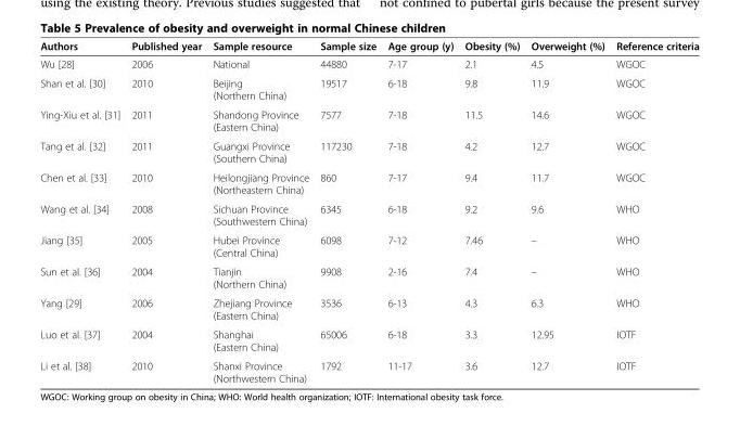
<table><thead><tr><td>Authors</td><td>Published year</td><td>Sample resource</td><td>Sample size</td><td>Age group (y)</td><td>Obesity (%)</td><td>Overweight (%)</td><td>Reference criteria</td></tr></thead><tbody><tr><td>Wu [28]</td><td>2006</td><td>National</td><td>44880</td><td>7-17</td><td>2.1</td><td>4.5</td><td>WGOC</td></tr><tr><td>Shan et al. [30]</td><td>2010</td><td>Beijing (Northern China)</td><td>19517</td><td>6-18</td><td>9.8</td><td>11.9</td><td>WGOC</td></tr><tr><td>Ying-Xiu et al. [31]</td><td>2011</td><td>Shandong Province (Eastern China)</td><td>7577</td><td>7-18</td><td>11.5</td><td>14.6</td><td>WGOC</td></tr><tr><td>Tang et al. [32]</td><td>2011</td><td>Guangxi Province (Southern China)</td><td>117230</td><td>7-18</td><td>4.2</td><td>12.7</td><td>WGOC</td></tr><tr><td>Chen et al. [33]</td><td>2010</td><td>Heilongjiang Province (Northeastern China)</td><td>860</td><td>7-17</td><td>9.4</td><td>11.7</td><td>WGOC</td></tr><tr><td>Wang et al. [34]</td><td>2008</td><td>Sichuan Province (Southwestern China)</td><td>6345</td><td>6-18</td><td>9.2</td><td>9.6</td><td>WHO</td></tr><tr><td>Jiang [35]</td><td>2005</td><td>Hubei Province (Central China)</td><td>6098</td><td>7-12</td><td>7.46</td><td>–</td><td>WHO</td></tr><tr><td>Sun et al. [36]</td><td>2004</td><td>Tianjin (Northern China)</td><td>9908</td><td>2-16</td><td>7.4</td><td>–</td><td>WHO</td></tr><tr><td>Yang [29]</td><td>2006</td><td>Zhejiang Province (Eastern China)</td><td>3536</td><td>6-13</td><td>4.3</td><td>6.3</td><td>WHO</td></tr><tr><td>Luo et al. [37]</td><td>2004</td><td>Shanghai (Eastern China)</td><td>65006</td><td>6-18</td><td>3.3</td><td>12.95</td><td>IOTF</td></tr><tr><td>Li et al. [38]</td><td>2010</td><td>Shanxi Province (Northwestern China)</td><td>1792</td><td>11-17</td><td>3.6</td><td>12.7</td><td>IOTF</td></tr></tbody></table>